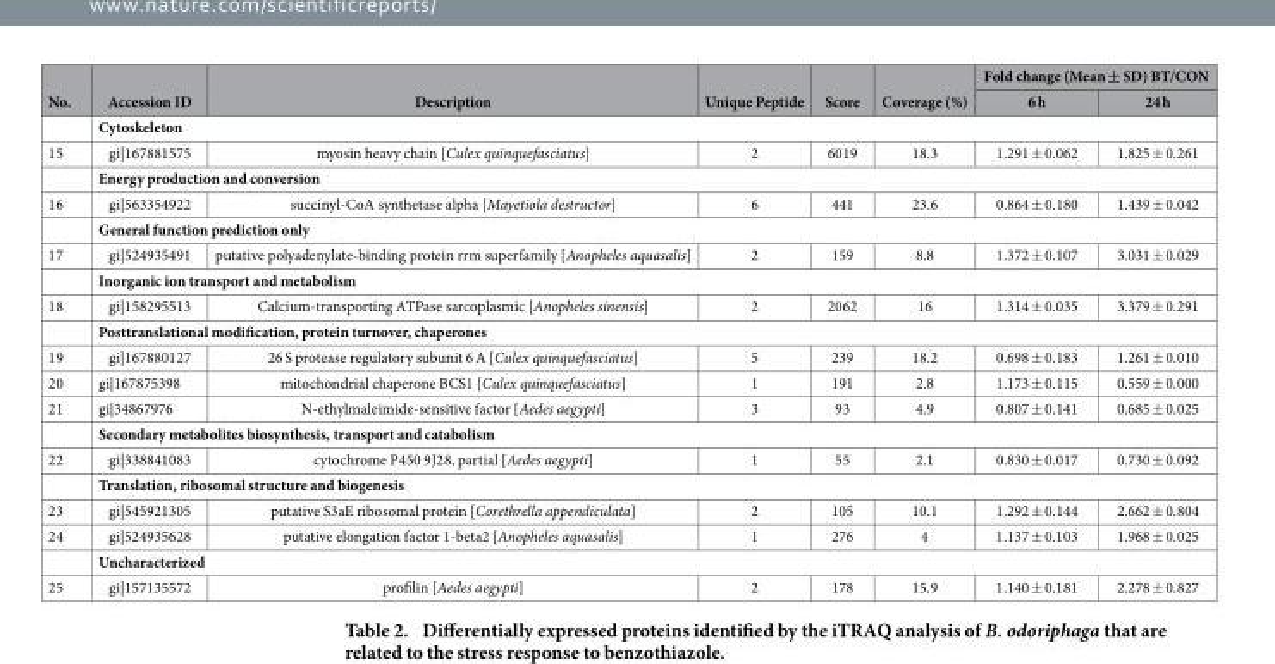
<table><thead><tr><td rowspan="2">No.</td><td rowspan="2">Accession ID</td><td rowspan="2">Description</td><td rowspan="2">Unique Peptide</td><td rowspan="2">Score</td><td rowspan="2">Coverage (%)</td><td colspan="2">Fold change (Mean ± SD) BT/CON</td></tr><tr><td>6 h</td><td>24 h</td></tr></thead><tbody><tr><td></td><td colspan="7">Cytoskeleton</td></tr><tr><td rowspan="2">15</td><td>gi|167881575</td><td>myosin heavy chain [Culex quinquefasciatus]</td><td>2</td><td>6019</td><td>18.3</td><td>1.291 ± 0.062</td><td>1.825 ± 0.261</td></tr><tr><td colspan="7">Energy production and conversion</td></tr><tr><td rowspan="2">16</td><td>gi|563354922</td><td>succinyl-CoA synthetase alpha [Mayetiola destructor]</td><td>6</td><td>441</td><td>23.6</td><td>0.864 ± 0.180</td><td>1.439 ± 0.042</td></tr><tr><td colspan="7">General function prediction only</td></tr><tr><td rowspan="2">17</td><td>gi|524935491</td><td>putative polyadenylate-binding protein rrm superfamily [Anopheles aquasalis]</td><td>2</td><td>159</td><td>8.8</td><td>1.372 ± 0.107</td><td>3.031 ± 0.029</td></tr><tr><td colspan="7">Inorganic ion transport and metabolism</td></tr><tr><td rowspan="2">18</td><td>gi|158295513</td><td>Calcium-transporting ATPase sarcoplasmic [Anopheles sinensis]</td><td>2</td><td>2062</td><td>16</td><td>1.314 ± 0.035</td><td>3.379 ± 0.291</td></tr><tr><td colspan="7">Posttranslational modification, protein turnover, chaperones</td></tr><tr><td>19</td><td>gi|167880127</td><td>26 S protease regulatory subunit 6 A [Culex quinquefasciatus]</td><td>5</td><td>239</td><td>18.2</td><td>0.698 ± 0.183</td><td>1.261 ± 0.010</td></tr><tr><td>20</td><td>gi|167875398</td><td>mitochondrial chaperone BCS1 [Culex quinquefasciatus]</td><td>1</td><td>191</td><td>2.8</td><td>1.173 ± 0.115</td><td>0.559 ± 0.000</td></tr><tr><td rowspan="2">21</td><td>gi|34867976</td><td>N-ethylmaleimide-sensitive factor [Aedes aegypti]</td><td>3</td><td>93</td><td>4.9</td><td>0.807 ± 0.141</td><td>0.685 ± 0.025</td></tr><tr><td colspan="7">Secondary metabolites biosynthesis, transport and catabolism</td></tr><tr><td rowspan="2">22</td><td>gi|338841083</td><td>cytochrome P450 9J28, partial [Aedes aegypti]</td><td>1</td><td>55</td><td>2.1</td><td>0.830 ± 0.017</td><td>0.730 ± 0.092</td></tr><tr><td colspan="7">Translation, ribosomal structure and biogenesis</td></tr><tr><td>23</td><td>gi|545921305</td><td>putative S3aE ribosomal protein [Corethrella appendiculata]</td><td>2</td><td>105</td><td>10.1</td><td>1.292 ± 0.144</td><td>2.662 ± 0.804</td></tr><tr><td rowspan="2">24</td><td>gi|524935628</td><td>putative elongation factor 1-beta2 [Anopheles aquasalis]</td><td>1</td><td>276</td><td>4</td><td>1.137 ± 0.103</td><td>1.968 ± 0.025</td></tr><tr><td colspan="7">Uncharacterized</td></tr><tr><td>25</td><td>gi|157135572</td><td>profilin [Aedes aegypti]</td><td>2</td><td>178</td><td>15.9</td><td>1.140 ± 0.181</td><td>2.278 ± 0.827</td></tr></tbody></table>